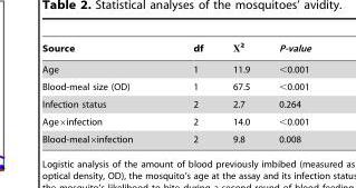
<table><thead><tr><td>Source</td><td>df</td><td>X2</td><td>P-value</td></tr></thead><tbody><tr><td>Age</td><td>1</td><td>11.9</td><td>&lt;0.001</td></tr><tr><td>Blood-meal size (OD)</td><td>1</td><td>67.5</td><td>&lt;0.001</td></tr><tr><td>Infection status</td><td>2</td><td>2.7</td><td>0.264</td></tr><tr><td>Age×infection</td><td>2</td><td>14.0</td><td>&lt;0.001</td></tr><tr><td>Blood-meal×infection</td><td>2</td><td>9.8</td><td>0.008</td></tr></tbody></table>